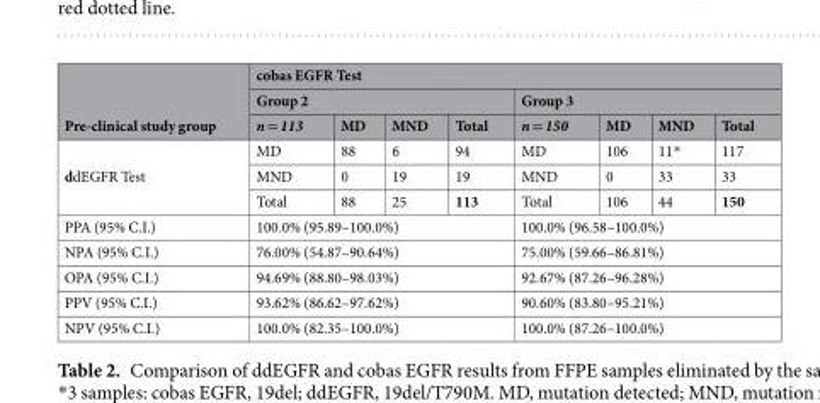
<table><thead><tr><td rowspan="3">Pre-clinical study group</td><td colspan="8">cobas EGFR Test</td></tr><tr><td colspan="4">Group 2</td><td colspan="4">Group 3</td></tr><tr><td>n = 113</td><td>MD</td><td>MND</td><td>Total</td><td>n = 150</td><td>MD</td><td>MND</td><td>Total</td></tr></thead><tbody><tr><td rowspan="3">ddEGFR Test</td><td>MD</td><td>88</td><td>6</td><td>94</td><td>MD</td><td>106</td><td>11*</td><td>117</td></tr><tr><td>MND</td><td>0</td><td>19</td><td>19</td><td>MND</td><td>0</td><td>33</td><td>33</td></tr><tr><td>Total</td><td>88</td><td>25</td><td>113</td><td>Total</td><td>106</td><td>44</td><td>150</td></tr><tr><td>PPA (95% C.I.)</td><td colspan="4">100.0% (95.89–100.0%)</td><td colspan="4">100.0% (96.58–100.0%)</td></tr><tr><td>NPA (95% C.I.)</td><td colspan="4">76.00% (54.87–90.64%)</td><td colspan="4">75.00% (59.66–86.81%)</td></tr><tr><td>OPA (95% C.I.)</td><td colspan="4">94.69% (88.80–98.03%)</td><td colspan="4">92.67% (87.26–96.28%)</td></tr><tr><td>PPV (95% C.I.)</td><td colspan="4">93.62% (86.62–97.62%)</td><td colspan="4">90.60% (83.80–95.21%)</td></tr><tr><td>NPV (95% C.I.)</td><td colspan="4">100.0% (82.35–100.0%)</td><td colspan="4">100.0% (87.26–100.0%)</td></tr></tbody></table>